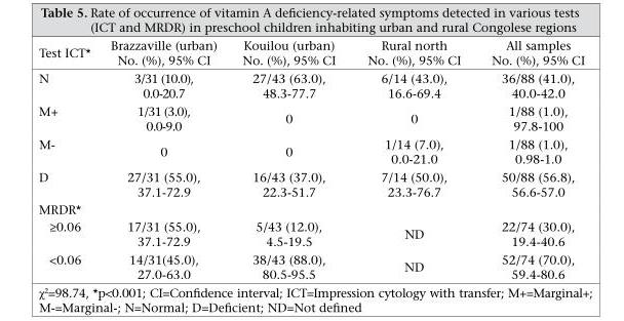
<table><thead><tr><td>Test ICT*</td><td>Brazzaville (urban) No. (%), 95% CI</td><td>Kouilou (urban) No. (%), 95% CI</td><td>Rural north No. (%), 95% CI</td><td>All samples No. (%), 95% CI</td></tr></thead><tbody><tr><td>N</td><td>3/31 (10.0), 0.0-20.7</td><td>27/43 (63.0), 48.3-77.7</td><td>6/14 (43.0), 16.6-69.4</td><td>36/88 (41.0), 40.0-42.0</td></tr><tr><td>M+</td><td>1/31 (3.0), 0.0-9.0</td><td>0</td><td>0</td><td>1/88 (1.0), 97.8-100</td></tr><tr><td>M-</td><td>0</td><td>0</td><td>1/14 (7.0), 0.0-21.0</td><td>1/88 (1.0), 0.98-1.0</td></tr><tr><td>D</td><td>27/31 (55.0), 37.1-72.9</td><td>16/43 (37.0), 22.3-51.7</td><td>7/14 (50.0), 23.3-76.7</td><td>50/88 (56.8), 56.6-57.0</td></tr><tr><td colspan="5">MRDR*</td></tr><tr><td>≥0.06</td><td>17/31 (55.0), 37.1-72.9</td><td>5/43 (12.0), 4.5-19.5</td><td>ND</td><td>22/74 (30.0), 19.4-40.6</td></tr><tr><td>&lt;0.06</td><td>14/31(45.0), 27.0-63.0</td><td>38/43 (88.0), 80.5-95.5</td><td>ND</td><td>52/74 (70.0), 59.4-80.6</td></tr></tbody></table>